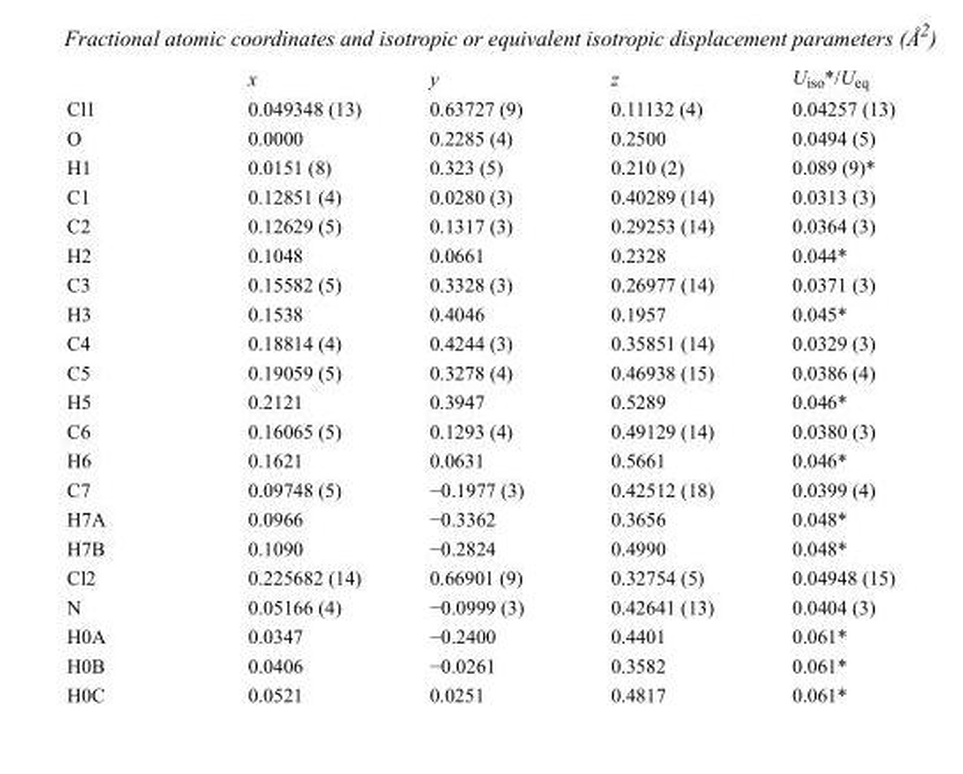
<table><thead><tr><td></td><td>x</td><td>y</td><td>z</td><td>U<sub>iso</sub>*/U<sub>eq</sub></td></tr></thead><tbody><tr><td>Cl1</td><td>0.049348 (13)</td><td>0.63727 (9)</td><td>0.11132 (4)</td><td>0.04257 (13)</td></tr><tr><td>O</td><td>0.0000</td><td>0.2285 (4)</td><td>0.2500</td><td>0.0494 (5)</td></tr><tr><td>H1</td><td>0.0151 (8)</td><td>0.323 (5)</td><td>0.210 (2)</td><td>0.089 (9)*</td></tr><tr><td>C1</td><td>0.12851 (4)</td><td>0.0280 (3)</td><td>0.40289 (14)</td><td>0.0313 (3)</td></tr><tr><td>C2</td><td>0.12629 (5)</td><td>0.1317 (3)</td><td>0.29253 (14)</td><td>0.0364 (3)</td></tr><tr><td>H2</td><td>0.1048</td><td>0.0661</td><td>0.2328</td><td>0.044*</td></tr><tr><td>C3</td><td>0.15582 (5)</td><td>0.3328 (3)</td><td>0.26977 (14)</td><td>0.0371 (3)</td></tr><tr><td>H3</td><td>0.1538</td><td>0.4046</td><td>0.1957</td><td>0.045*</td></tr><tr><td>C4</td><td>0.18814 (4)</td><td>0.4244 (3)</td><td>0.35851 (14)</td><td>0.0329 (3)</td></tr><tr><td>C5</td><td>0.19059 (5)</td><td>0.3278 (4)</td><td>0.46938 (15)</td><td>0.0386 (4)</td></tr><tr><td>H5</td><td>0.2121</td><td>0.3947</td><td>0.5289</td><td>0.046*</td></tr><tr><td>C6</td><td>0.16065 (5)</td><td>0.1293 (4)</td><td>0.49129 (14)</td><td>0.0380 (3)</td></tr><tr><td>H6</td><td>0.1621</td><td>0.0631</td><td>0.5661</td><td>0.046*</td></tr><tr><td>C7</td><td>0.09748 (5)</td><td>−0.1977 (3)</td><td>0.42512 (18)</td><td>0.0399 (4)</td></tr><tr><td>H7A</td><td>0.0966</td><td>−0.3362</td><td>0.3656</td><td>0.048*</td></tr><tr><td>H7B</td><td>0.1090</td><td>−0.2824</td><td>0.4990</td><td>0.048*</td></tr><tr><td>Cl2</td><td>0.225682 (14)</td><td>0.66901 (9)</td><td>0.32754 (5)</td><td>0.04948 (15)</td></tr><tr><td>N</td><td>0.05166 (4)</td><td>−0.0999 (3)</td><td>0.42641 (13)</td><td>0.0404 (3)</td></tr><tr><td>H0A</td><td>0.0347</td><td>−0.2400</td><td>0.4401</td><td>0.061*</td></tr><tr><td>H0B</td><td>0.0406</td><td>−0.0261</td><td>0.3582</td><td>0.061*</td></tr><tr><td>H0C</td><td>0.0521</td><td>0.0251</td><td>0.4817</td><td>0.061*</td></tr></tbody></table>